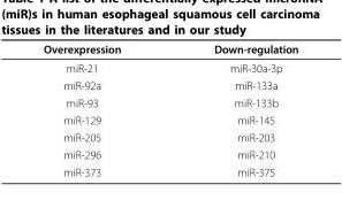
<table><thead><tr><td>Overexpression</td><td>Down-regulation</td></tr></thead><tbody><tr><td>miR-21</td><td>miR-30a-3p</td></tr><tr><td>miR-92a</td><td>miR-133a</td></tr><tr><td>miR-93</td><td>miR-133b</td></tr><tr><td>miR-129</td><td>miR-145</td></tr><tr><td>miR-205</td><td>miR-203</td></tr><tr><td>miR-296</td><td>miR-210</td></tr><tr><td>miR-373</td><td>miR-375</td></tr></tbody></table>